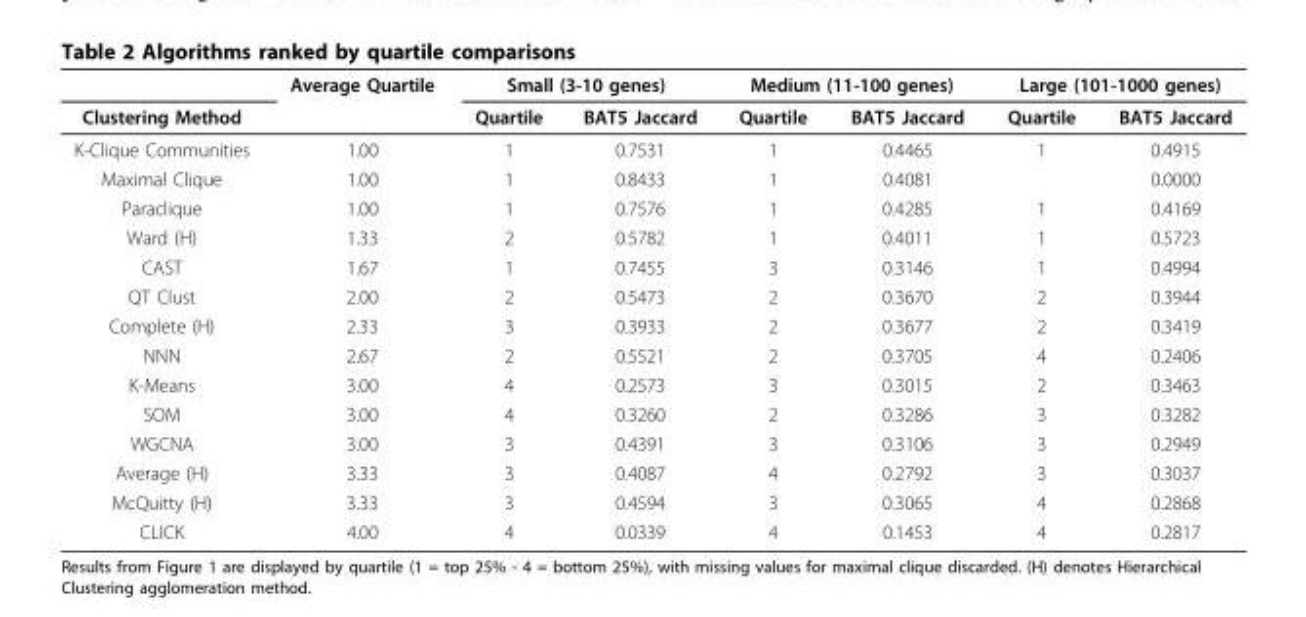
<table><thead><tr><td rowspan="2">Clustering Method</td><td rowspan="2">Average Quartile</td><td colspan="2">Small (3-10 genes)</td><td colspan="2">Medium (11-100 genes)</td><td colspan="2">Large (101-1000 genes)</td></tr><tr><td>Quartile</td><td>BAT5 Jaccard</td><td>Quartile</td><td>BAT5 Jaccard</td><td>Quartile</td><td>BAT5 Jaccard</td></tr></thead><tbody><tr><td>K-Clique Communities</td><td>1.00</td><td>1</td><td>0.7531</td><td>1</td><td>0.4465</td><td>1</td><td>0.4915</td></tr><tr><td>Maximal Clique</td><td>1.00</td><td>1</td><td>0.8433</td><td>1</td><td>0.4081</td><td></td><td>0.0000</td></tr><tr><td>Paraclique</td><td>1.00</td><td>1</td><td>0.7576</td><td>1</td><td>0.4285</td><td>1</td><td>0.4169</td></tr><tr><td>Ward (H)</td><td>1.33</td><td>2</td><td>0.5782</td><td>1</td><td>0.4011</td><td>1</td><td>0.5723</td></tr><tr><td>CAST</td><td>1.67</td><td>1</td><td>0.7455</td><td>3</td><td>0.3146</td><td>1</td><td>0.4994</td></tr><tr><td>QT Clust</td><td>2.00</td><td>2</td><td>0.5473</td><td>2</td><td>0.3670</td><td>2</td><td>0.3944</td></tr><tr><td>Complete (H)</td><td>2.33</td><td>3</td><td>0.3933</td><td>2</td><td>0.3677</td><td>2</td><td>0.3419</td></tr><tr><td>NNN</td><td>2.67</td><td>2</td><td>0.5521</td><td>2</td><td>0.3705</td><td>4</td><td>0.2406</td></tr><tr><td>K-Means</td><td>3.00</td><td>4</td><td>0.2573</td><td>3</td><td>0.3015</td><td>2</td><td>0.3463</td></tr><tr><td>SOM</td><td>3.00</td><td>4</td><td>0.3260</td><td>2</td><td>0.3286</td><td>3</td><td>0.3282</td></tr><tr><td>WGCNA</td><td>3.00</td><td>3</td><td>0.4391</td><td>3</td><td>0.3106</td><td>3</td><td>0.2949</td></tr><tr><td>Average (H)</td><td>3.33</td><td>3</td><td>0.4087</td><td>4</td><td>0.2792</td><td>3</td><td>0.3037</td></tr><tr><td>McQuitty (H)</td><td>3.33</td><td>3</td><td>0.4594</td><td>3</td><td>0.3065</td><td>4</td><td>0.2868</td></tr><tr><td>CLICK</td><td>4.00</td><td>4</td><td>0.0339</td><td>4</td><td>0.1453</td><td>4</td><td>0.2817</td></tr></tbody></table>